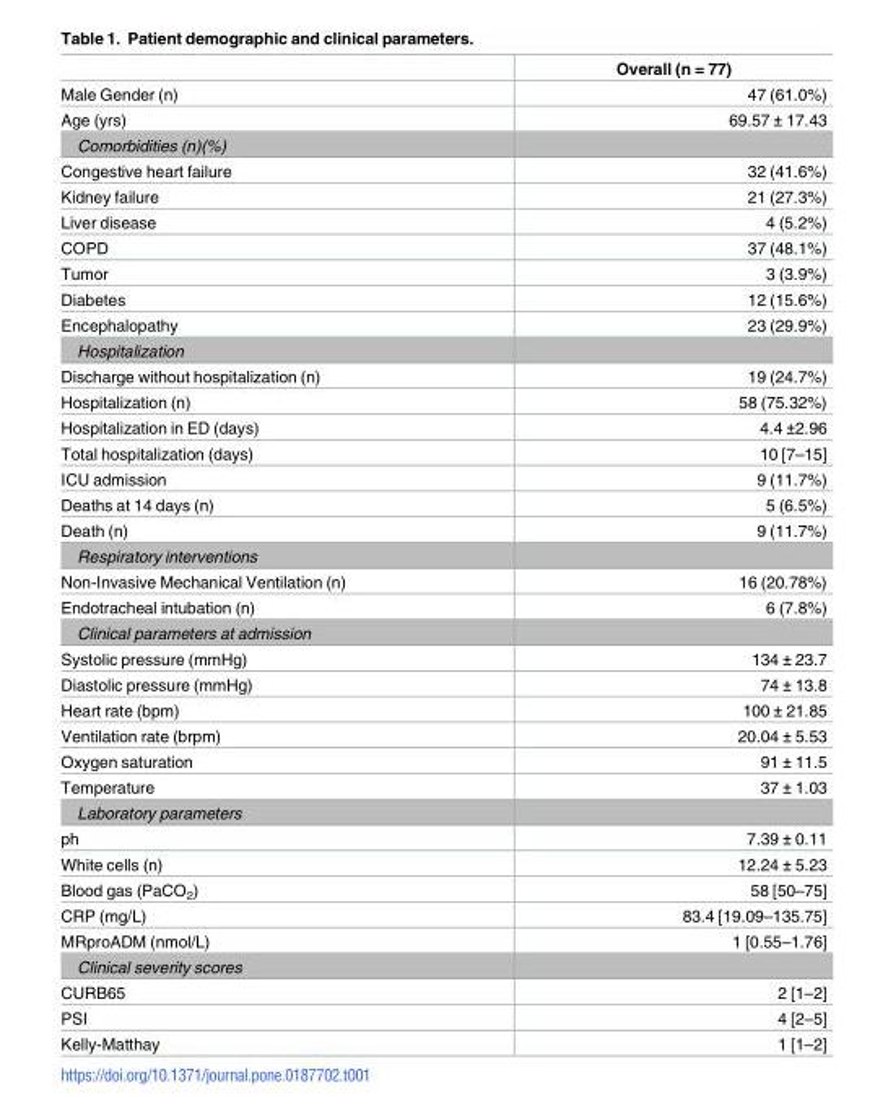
<table><thead><tr><td></td><td>Overall (n = 77)</td></tr></thead><tbody><tr><td>Male Gender (n)</td><td>47 (61.0%)</td></tr><tr><td>Age (yrs)</td><td>69.57 ± 17.43</td></tr><tr><td colspan="2">Comorbidities (n)(%)</td></tr><tr><td>Congestive heart failure</td><td>32 (41.6%)</td></tr><tr><td>Kidney failure</td><td>21 (27.3%)</td></tr><tr><td>Liver disease</td><td>4 (5.2%)</td></tr><tr><td>COPD</td><td>37 (48.1%)</td></tr><tr><td>Tumor</td><td>3 (3.9%)</td></tr><tr><td>Diabetes</td><td>12 (15.6%)</td></tr><tr><td>Encephalopathy</td><td>23 (29.9%)</td></tr><tr><td colspan="2">Hospitalization</td></tr><tr><td>Discharge without hospitalization (n)</td><td>19 (24.7%)</td></tr><tr><td>Hospitalization (n)</td><td>58 (75.32%)</td></tr><tr><td>Hospitalization in ED (days)</td><td>4.4 ±2.96</td></tr><tr><td>Total hospitalization (days)</td><td>10 [7–15]</td></tr><tr><td>ICU admission</td><td>9 (11.7%)</td></tr><tr><td>Deaths at 14 days (n)</td><td>5 (6.5%)</td></tr><tr><td>Death (n)</td><td>9 (11.7%)</td></tr><tr><td colspan="2">Respiratory interventions</td></tr><tr><td>Non-Invasive Mechanical Ventilation (n)</td><td>16 (20.78%)</td></tr><tr><td>Endotracheal intubation (n)</td><td>6 (7.8%)</td></tr><tr><td colspan="2">Clinical parameters at admission</td></tr><tr><td>Systolic pressure (mmHg)</td><td>134 ± 23.7</td></tr><tr><td>Diastolic pressure (mmHg)</td><td>74 ± 13.8</td></tr><tr><td>Heart rate (bpm)</td><td>100 ± 21.85</td></tr><tr><td>Ventilation rate (brpm)</td><td>20.04 ± 5.53</td></tr><tr><td>Oxygen saturation</td><td>91 ± 11.5</td></tr><tr><td>Temperature</td><td>37 ± 1.03</td></tr><tr><td colspan="2">Laboratory parameters</td></tr><tr><td>ph</td><td>7.39 ± 0.11</td></tr><tr><td>White cells (n)</td><td>12.24 ± 5.23</td></tr><tr><td>Blood gas (PaCO<sub>2</sub>)</td><td>58 [50–75]</td></tr><tr><td>CRP (mg/L)</td><td>83.4 [19.09–135.75]</td></tr><tr><td>MRproADM (nmol/L)</td><td>1 [0.55–1.76]</td></tr><tr><td colspan="2">Clinical severity scores</td></tr><tr><td>CURB65</td><td>2 [1–2]</td></tr><tr><td>PSI</td><td>4 [2–5]</td></tr><tr><td>Kelly-Matthay</td><td>1 [1–2]</td></tr></tbody></table>